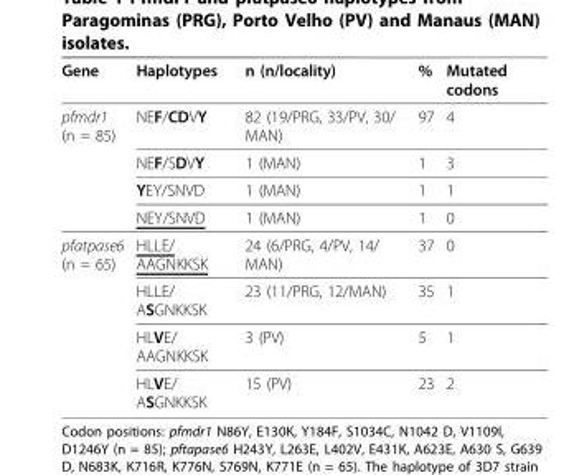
<table><thead><tr><td>Gene</td><td>Haplotypes</td><td>n (n/locality)</td><td>%</td><td>Mutated codons</td></tr></thead><tbody><tr><td rowspan="4">pfmdr1 (n = 85)</td><td>NEF/CDVY</td><td>82 (19/PRG, 33/PV, 30/ MAN)</td><td>97</td><td>4</td></tr><tr><td>NEF/SDVY</td><td>1 (MAN)</td><td>1</td><td>3</td></tr><tr><td>YEY/SNVD</td><td>1 (MAN)</td><td>1</td><td>1</td></tr><tr><td>NEY/SNVD</td><td>1 (MAN)</td><td>1</td><td>0</td></tr><tr><td rowspan="4">pfatpase6 (n = 65)</td><td>HLLE/ AAGNKKSK</td><td>24 (6/PRG, 4/PV, 14/ MAN)</td><td>37</td><td>0</td></tr><tr><td>HLLE/ ASGNKKSK</td><td>23 (11/PRG, 12/MAN)</td><td>35</td><td>1</td></tr><tr><td>HLVE/ AAGNKKSK</td><td>3 (PV)</td><td>5</td><td>1</td></tr><tr><td>HLVE/ ASGNKKSK</td><td>15 (PV)</td><td>23</td><td>2</td></tr></tbody></table>